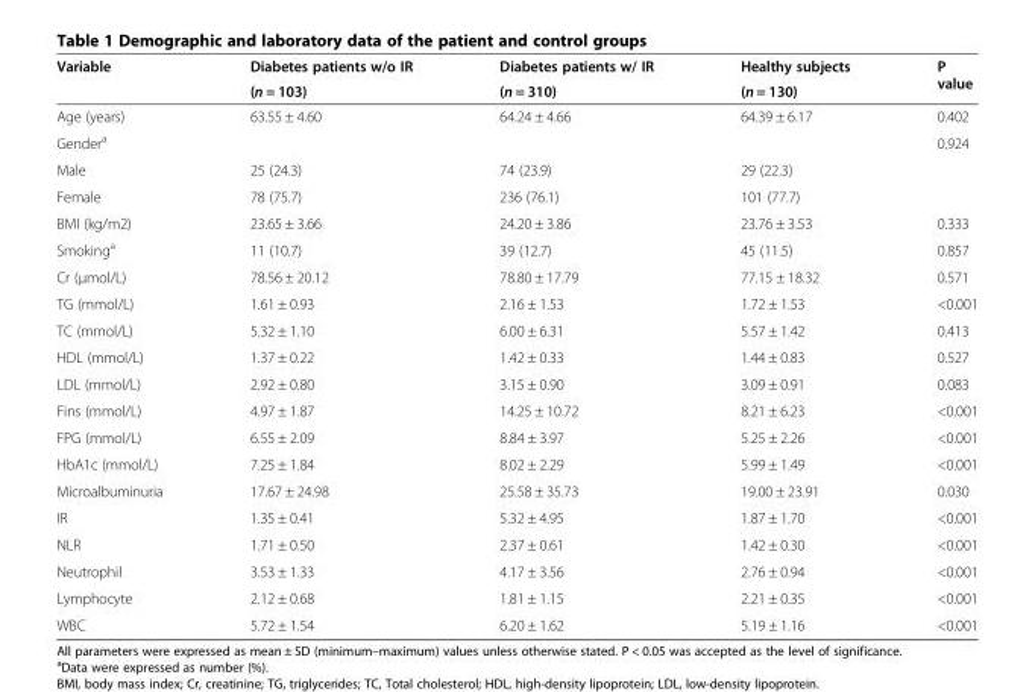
<table><thead><tr><td rowspan="2">Variable</td><td rowspan="2">Diabetes patients w/o IR (n = 103)</td><td rowspan="2">Diabetes patients w/ IR (n = 310)</td><td rowspan="2">Healthy subjects (n = 130)</td><td rowspan="2">P value</td></tr><tr></tr></thead><tbody><tr><td>Age (years)</td><td>63.55 ± 4.60</td><td>64.24 ± 4.66</td><td>64.39 ± 6.17</td><td>0.402</td></tr><tr><td>Gender<sup>a</sup></td><td></td><td></td><td></td><td>0.924</td></tr><tr><td>Male</td><td>25 (24.3)</td><td>74 (23.9)</td><td>29 (22.3)</td><td></td></tr><tr><td>Female</td><td>78 (75.7)</td><td>236 (76.1)</td><td>101 (77.7)</td><td></td></tr><tr><td>BMI (kg/m2)</td><td>23.65 ± 3.66</td><td>24.20 ± 3.86</td><td>23.76 ± 3.53</td><td>0.333</td></tr><tr><td>Smoking<sup>a</sup></td><td>11 (10.7)</td><td>39 (12.7)</td><td>45 (11.5)</td><td>0.857</td></tr><tr><td>Cr (μmol/L)</td><td>78.56 ± 20.12</td><td>78.80 ± 17.79</td><td>77.15 ± 18.32</td><td>0.571</td></tr><tr><td>TG (mmol/L)</td><td>1.61 ± 0.93</td><td>2.16 ± 1.53</td><td>1.72 ± 1.53</td><td>&lt;0.001</td></tr><tr><td>TC (mmol/L)</td><td>5.32 ± 1.10</td><td>6.00 ± 6.31</td><td>5.57 ± 1.42</td><td>0.413</td></tr><tr><td>HDL (mmol/L)</td><td>1.37 ± 0.22</td><td>1.42 ± 0.33</td><td>1.44 ± 0.83</td><td>0.527</td></tr><tr><td>LDL (mmol/L)</td><td>2.92 ± 0.80</td><td>3.15 ± 0.90</td><td>3.09 ± 0.91</td><td>0.083</td></tr><tr><td>Fins (mmol/L)</td><td>4.97 ± 1.87</td><td>14.25 ± 10.72</td><td>8.21 ± 6.23</td><td>&lt;0.001</td></tr><tr><td>FPG (mmol/L)</td><td>6.55 ± 2.09</td><td>8.84 ± 3.97</td><td>5.25 ± 2.26</td><td>&lt;0.001</td></tr><tr><td>HbA1c (mmol/L)</td><td>7.25 ± 1.84</td><td>8.02 ± 2.29</td><td>5.99 ± 1.49</td><td>&lt;0.001</td></tr><tr><td>Microalbuminuria</td><td>17.67 ± 24.98</td><td>25.58 ± 35.73</td><td>19.00 ± 23.91</td><td>0.030</td></tr><tr><td>IR</td><td>1.35 ± 0.41</td><td>5.32 ± 4.95</td><td>1.87 ± 1.70</td><td>&lt;0.001</td></tr><tr><td>NLR</td><td>1.71 ± 0.50</td><td>2.37 ± 0.61</td><td>1.42 ± 0.30</td><td>&lt;0.001</td></tr><tr><td>Neutrophil</td><td>3.53 ± 1.33</td><td>4.17 ± 3.56</td><td>2.76 ± 0.94</td><td>&lt;0.001</td></tr><tr><td>Lymphocyte</td><td>2.12 ± 0.68</td><td>1.81 ± 1.15</td><td>2.21 ± 0.35</td><td>&lt;0.001</td></tr><tr><td>WBC</td><td>5.72 ± 1.54</td><td>6.20 ± 1.62</td><td>5.19 ± 1.16</td><td>&lt;0.001</td></tr></tbody></table>